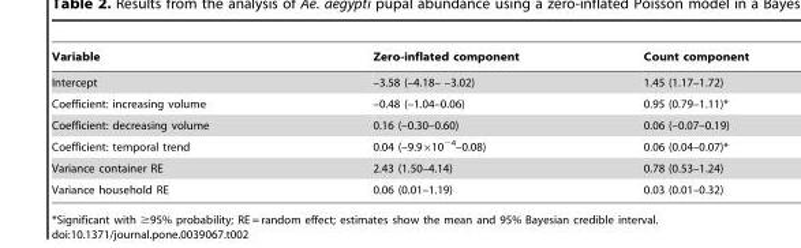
<table><thead><tr><td>Variable</td><td>Zero-inflated component</td><td>Count component</td></tr></thead><tbody><tr><td>Intercept</td><td>–3.58 (–4.18– –3.02)</td><td>1.45 (1.17–1.72)</td></tr><tr><td>Coefficient: increasing volume</td><td>–0.48 (–1.04–0.06)</td><td>0.95 (0.79–1.11)*</td></tr><tr><td>Coefficient: decreasing volume</td><td>0.16 (–0.30–0.60)</td><td>0.06 (–0.07–0.19)</td></tr><tr><td>Coefficient: temporal trend</td><td>0.04 (–9.9×10<sup>−4</sup>–0.08)</td><td>0.06 (0.04–0.07)*</td></tr><tr><td>Variance container RE</td><td>2.43 (1.50–4.14)</td><td>0.78 (0.53–1.24)</td></tr><tr><td>Variance household RE</td><td>0.06 (0.01–1.19)</td><td>0.03 (0.01–0.32)</td></tr></tbody></table>